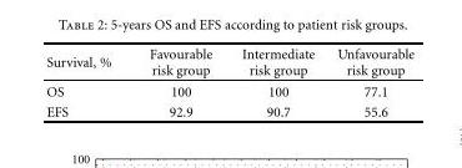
<table><thead><tr><td>Survival, %</td><td>Favourable risk group</td><td>Intermediate risk group</td><td>Unfavourable risk group</td></tr></thead><tbody><tr><td>OS</td><td>100</td><td>100</td><td>77.1</td></tr><tr><td>EFS</td><td>92.9</td><td>90.7</td><td>55.6</td></tr></tbody></table>